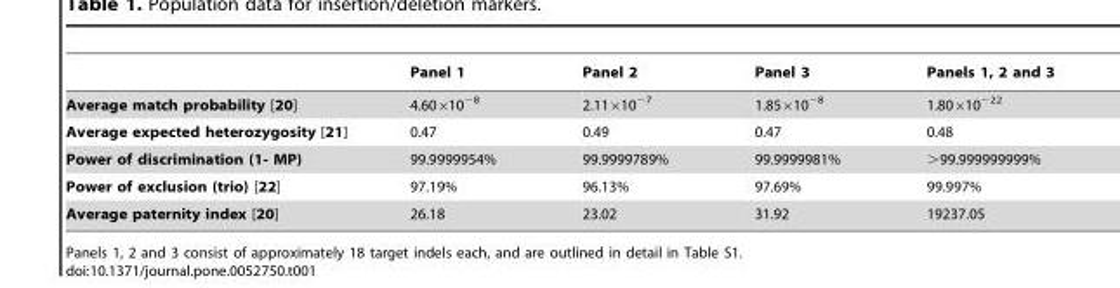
<table><thead><tr><td></td><td>Panel 1</td><td>Panel 2</td><td>Panel 3</td><td>Panels 1, 2 and 3</td></tr></thead><tbody><tr><td>Average match probability [20]</td><td>4.60×10<sup>−8</sup></td><td>2.11×10<sup>−7</sup></td><td>1.85×10<sup>−8</sup></td><td>1.80×10<sup>−22</sup></td></tr><tr><td>Average expected heterozygosity [21]</td><td>0.47</td><td>0.49</td><td>0.47</td><td>0.48</td></tr><tr><td>Power of discrimination (1- MP)</td><td>99.9999954%</td><td>99.9999789%</td><td>99.9999981%</td><td>&gt;99.999999999%</td></tr><tr><td>Power of exclusion (trio) [22]</td><td>97.19%</td><td>96.13%</td><td>97.69%</td><td>99.997%</td></tr><tr><td>Average paternity index [20]</td><td>26.18</td><td>23.02</td><td>31.92</td><td>19237.05</td></tr></tbody></table>